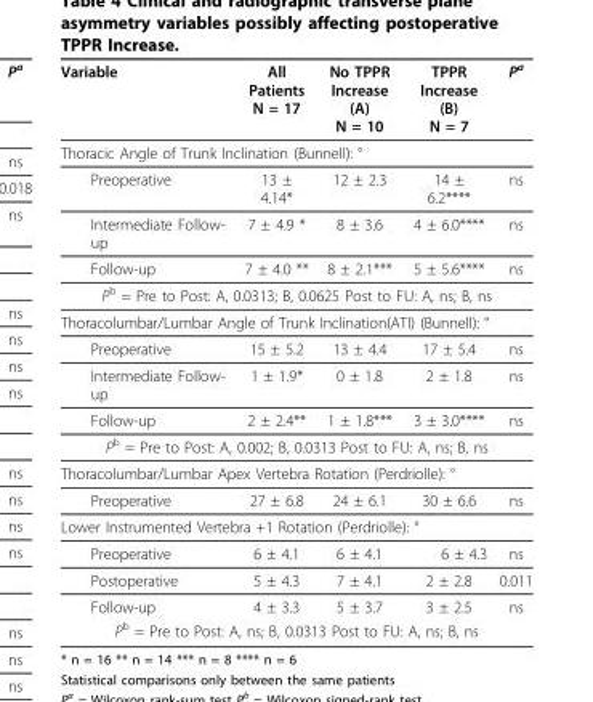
<table><thead><tr><td>Variable</td><td>All Patients N = 17</td><td>No TPPR Increase (A) N = 10</td><td>TPPR Increase (B) N = 7</td><td>P<sup>a</sup></td></tr></thead><tbody><tr><td colspan="5">Thoracic Angle of Trunk Inclination (Bunnell): °</td></tr><tr><td>Preoperative</td><td>13 ± 4.14*</td><td>12 ± 2.3</td><td>14 ± 6.2****</td><td>ns</td></tr><tr><td>Intermediate Follow- up</td><td>7 ± 4.9 *</td><td>8 ± 3.6</td><td>4 ± 6.0****</td><td>ns</td></tr><tr><td>Follow-up</td><td>7 ± 4.0 **</td><td>8 ± 2.1***</td><td>5 ± 5.6****</td><td>ns</td></tr><tr><td colspan="5">P<sup>b</sup> = Pre to Post: A, 0.0313; B, 0.0625 Post to FU: A, ns; B, ns</td></tr><tr><td colspan="5">Thoracolumbar/Lumbar Angle of Trunk Inclination(ATI) (Bunnell): °</td></tr><tr><td>Preoperative</td><td>15 ± 5.2</td><td>13 ± 4.4</td><td>17 ± 5.4</td><td>ns</td></tr><tr><td>Intermediate Follow- up</td><td>1 ± 1.9*</td><td>0 ± 1.8</td><td>2 ± 1.8</td><td>ns</td></tr><tr><td>Follow-up</td><td>2 ± 2.4**</td><td>1 ± 1.8***</td><td>3 ± 3.0****</td><td>ns</td></tr><tr><td colspan="5">P<sup>b</sup> = Pre to Post: A, 0.002; B, 0.0313 Post to FU: A, ns; B, ns</td></tr><tr><td colspan="5">Thoracolumbar/Lumbar Apex Vertebra Rotation (Perdriolle): °</td></tr><tr><td>Preoperative</td><td>27 ± 6.8</td><td>24 ± 6.1</td><td>30 ± 6.6</td><td>ns</td></tr><tr><td colspan="5">Lower Instrumented Vertebra +1 Rotation (Perdriolle): °</td></tr><tr><td>Preoperative</td><td>6 ± 4.1</td><td>6 ± 4.1</td><td>6 ± 4.3</td><td>ns</td></tr><tr><td>Postoperative</td><td>5 ± 4.3</td><td>7 ± 4.1</td><td>2 ± 2.8</td><td>0.011</td></tr><tr><td>Follow-up</td><td>4 ± 3.3</td><td>5 ± 3.7</td><td>3 ± 2.5</td><td>ns</td></tr><tr><td colspan="5">P<sup>b</sup> = Pre to Post: A, ns; B, 0.0313 Post to FU: A, ns; B, ns</td></tr></tbody></table>